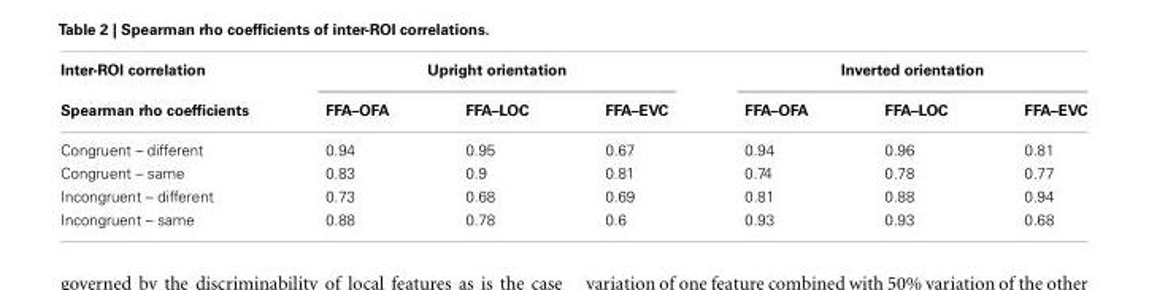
<table><thead><tr><td rowspan="2">Inter-ROI correlation Spearman rho coefficients</td><td colspan="3">Upright orientation</td><td colspan="3">Inverted orientation</td></tr><tr><td>FFA–OFA</td><td>FFA–LOC</td><td>FFA–EVC</td><td>FFA–OFA</td><td>FFA–LOC</td><td>FFA–EVC</td></tr></thead><tbody><tr><td>Congruent – different</td><td>0.94</td><td>0.95</td><td>0.67</td><td>0.94</td><td>0.96</td><td>0.81</td></tr><tr><td>Congruent – same</td><td>0.83</td><td>0.9</td><td>0.81</td><td>0.74</td><td>0.78</td><td>0.77</td></tr><tr><td>Incongruent – different</td><td>0.73</td><td>0.68</td><td>0.69</td><td>0.81</td><td>0.88</td><td>0.94</td></tr><tr><td>Incongruent – same</td><td>0.88</td><td>0.78</td><td>0.6</td><td>0.93</td><td>0.93</td><td>0.68</td></tr></tbody></table>